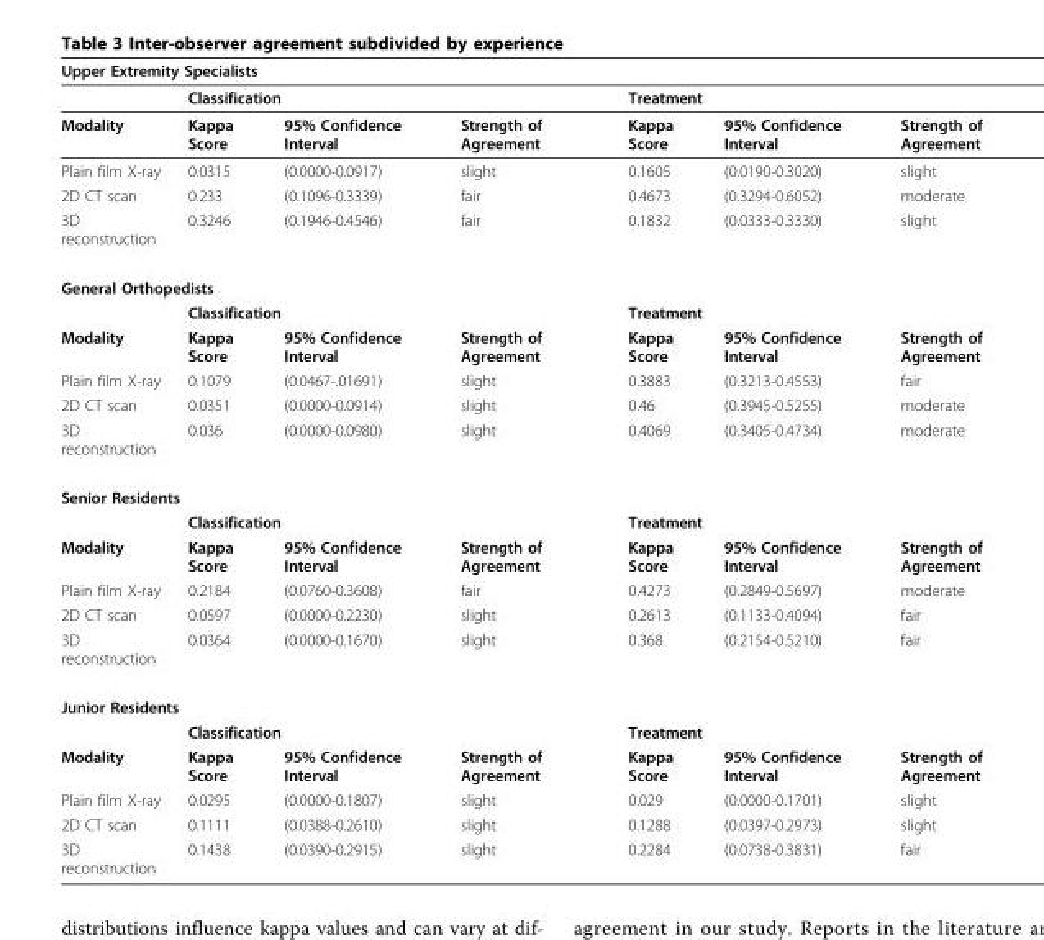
<table><thead><tr><td colspan="2">Upper Extremity Specialists</td><td></td><td rowspan="3">Strength of Agreement</td><td></td><td></td><td rowspan="3">Strength of Agreement</td></tr><tr><td rowspan="2">Modality</td><td colspan="2">Classification</td><td colspan="2">Treatment</td></tr><tr><td>Kappa Score</td><td>95% Confidence Interval</td><td>Kappa Score</td><td>95% Confidence Interval</td></tr></thead><tbody><tr><td>Plain film X-ray</td><td>0.0315</td><td>(0.0000-0.0917)</td><td>slight</td><td>0.1605</td><td>(0.0190-0.3020)</td><td>slight</td></tr><tr><td>2D CT scan</td><td>0.233</td><td>(0.1096-0.3339)</td><td>fair</td><td>0.4673</td><td>(0.3294-0.6052)</td><td>moderate</td></tr><tr><td>3D reconstruction</td><td>0.3246</td><td>(0.1946-0.4546)</td><td>fair</td><td>0.1832</td><td>(0.0333-0.3330)</td><td>slight</td></tr><tr><td colspan="7">General Orthopedists</td></tr><tr><td></td><td colspan="2">Classification</td><td></td><td colspan="2">Treatment</td><td></td></tr><tr><td>Modality</td><td>Kappa Score</td><td>95% Confidence Interval</td><td>Strength of Agreement</td><td>Kappa Score</td><td>95% Confidence Interval</td><td>Strength of Agreement</td></tr><tr><td>Plain film X-ray</td><td>0.1079</td><td>(0.0467-.01691)</td><td>slight</td><td>0.3883</td><td>(0.3213-0.4553)</td><td>fair</td></tr><tr><td>2D CT scan</td><td>0.0351</td><td>(0.0000-0.0914)</td><td>slight</td><td>0.46</td><td>(0.3945-0.5255)</td><td>moderate</td></tr><tr><td>3D reconstruction</td><td>0.036</td><td>(0.0000-0.0980)</td><td>slight</td><td>0.4069</td><td>(0.3405-0.4734)</td><td>moderate</td></tr><tr><td colspan="7">Senior Residents</td></tr><tr><td></td><td colspan="2">Classification</td><td></td><td colspan="2">Treatment</td><td></td></tr><tr><td>Modality</td><td>Kappa Score</td><td>95% Confidence Interval</td><td>Strength of Agreement</td><td>Kappa Score</td><td>95% Confidence Interval</td><td>Strength of Agreement</td></tr><tr><td>Plain film X-ray</td><td>0.2184</td><td>(0.0760-0.3608)</td><td>fair</td><td>0.4273</td><td>(0.2849-0.5697)</td><td>moderate</td></tr><tr><td>2D CT scan</td><td>0.0597</td><td>(0.0000-0.2230)</td><td>slight</td><td>0.2613</td><td>(0.1133-0.4094)</td><td>fair</td></tr><tr><td>3D reconstruction</td><td>0.0364</td><td>(0.0000-0.1670)</td><td>slight</td><td>0.368</td><td>(0.2154-0.5210)</td><td>fair</td></tr><tr><td colspan="7">Junior Residents</td></tr><tr><td></td><td colspan="2">Classification</td><td></td><td colspan="2">Treatment</td><td></td></tr><tr><td>Modality</td><td>Kappa Score</td><td>95% Confidence Interval</td><td>Strength of Agreement</td><td>Kappa Score</td><td>95% Confidence Interval</td><td>Strength of Agreement</td></tr><tr><td>Plain film X-ray</td><td>0.0295</td><td>(0.0000-0.1807)</td><td>slight</td><td>0.029</td><td>(0.0000-0.1701)</td><td>slight</td></tr><tr><td>2D CT scan</td><td>0.1111</td><td>(0.0388-0.2610)</td><td>slight</td><td>0.1288</td><td>(0.0397-0.2973)</td><td>slight</td></tr><tr><td>3D reconstruction</td><td>0.1438</td><td>(0.0390-0.2915)</td><td>slight</td><td>0.2284</td><td>(0.0738-0.3831)</td><td>fair</td></tr></tbody></table>